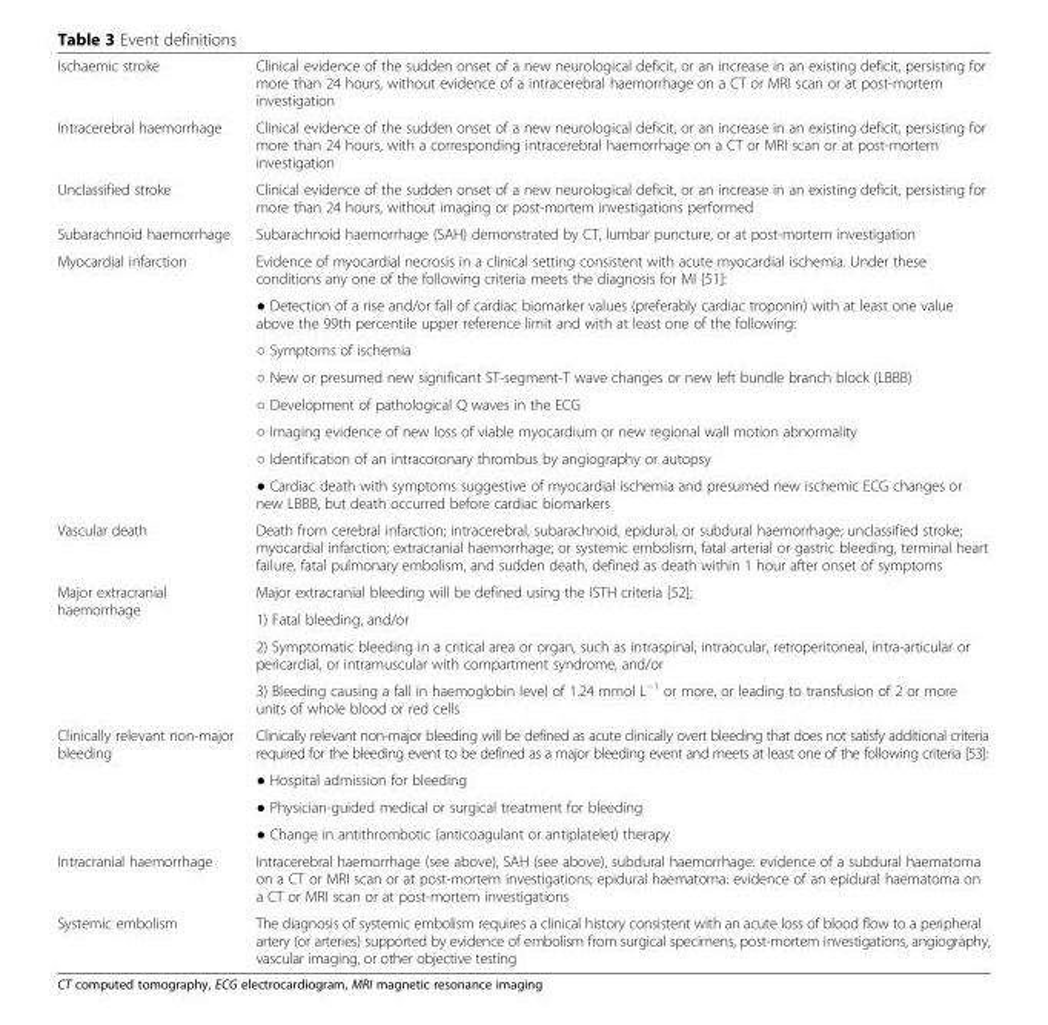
<table><tbody><tr><td>Ischaemic stroke</td><td>Clinical evidence of the sudden onset of a new neurological deficit, or an increase in an existing deficit, persisting for more than 24 hours, without evidence of a intracerebral haemorrhage on a CT or MRI scan or at post-mortem investigation</td></tr><tr><td>Intracerebral haemorrhage</td><td>Clinical evidence of the sudden onset of a new neurological deficit, or an increase in an existing deficit, persisting for more than 24 hours, with a corresponding intracerebral haemorrhage on a CT or MRI scan or at post-mortem investigation</td></tr><tr><td>Unclassified stroke</td><td>Clinical evidence of the sudden onset of a new neurological deficit, or an increase in an existing deficit, persisting for more than 24 hours, without imaging or post-mortem investigations performed</td></tr><tr><td>Subarachnoid haemorrhage</td><td>Subarachnoid haemorrhage (SAH) demonstrated by CT, lumbar puncture, or at post-mortem investigation</td></tr><tr><td rowspan="8">Myocardial infarction</td><td>Evidence of myocardial necrosis in a clinical setting consistent with acute myocardial ischemia. Under these conditions any one of the following criteria meets the diagnosis for MI [51]:</td></tr><tr><td>● Detection of a rise and/or fall of cardiac biomarker values (preferably cardiac troponin) with at least one value above the 99th percentile upper reference limit and with at least one of the following:</td></tr><tr><td>○ Symptoms of ischemia</td></tr><tr><td>○ New or presumed new significant ST-segment-T wave changes or new left bundle branch block (LBBB)</td></tr><tr><td>○ Development of pathological Q waves in the ECG</td></tr><tr><td>○ Imaging evidence of new loss of viable myocardium or new regional wall motion abnormality</td></tr><tr><td>○ Identification of an intracoronary thrombus by angiography or autopsy</td></tr><tr><td>● Cardiac death with symptoms suggestive of myocardial ischemia and presumed new ischemic ECG changes or new LBBB, but death occurred before cardiac biomarkers</td></tr><tr><td>Vascular death</td><td>Death from cerebral infarction; intracerebral, subarachnoid, epidural, or subdural haemorrhage; unclassified stroke; myocardial infarction; extracranial haemorrhage; or systemic embolism, fatal arterial or gastric bleeding, terminal heart failure, fatal pulmonary embolism, and sudden death, defined as death within 1 hour after onset of symptoms</td></tr><tr><td rowspan="4">Major extracranial haemorrhage</td><td>Major extracranial bleeding will be defined using the ISTH criteria [52];</td></tr><tr><td>1) Fatal bleeding, and/or</td></tr><tr><td>2) Symptomatic bleeding in a critical area or organ, such as intraspinal, intraocular, retroperitoneal, intra-articular or pericardial, or intramuscular with compartment syndrome, and/or</td></tr><tr><td>3) Bleeding causing a fall in haemoglobin level of 1.24 mmol L<sup>−1</sup> or more, or leading to transfusion of 2 or more units of whole blood or red cells</td></tr><tr><td rowspan="4">Clinically relevant non-major bleeding</td><td>Clinically relevant non-major bleeding will be defined as acute clinically overt bleeding that does not satisfy additional criteria required for the bleeding event to be defined as a major bleeding event and meets at least one of the following criteria [53]:</td></tr><tr><td>● Hospital admission for bleeding</td></tr><tr><td>● Physician-guided medical or surgical treatment for bleeding</td></tr><tr><td>● Change in antithrombotic (anticoagulant or antiplatelet) therapy</td></tr><tr><td>Intracranial haemorrhage</td><td>Intracerebral haemorrhage (see above), SAH (see above), subdural haemorrhage: evidence of a subdural haematoma on a CT or MRI scan or at post-mortem investigations; epidural haematoma: evidence of an epidural haematoma on a CT or MRI scan or at post-mortem investigations</td></tr><tr><td>Systemic embolism</td><td>The diagnosis of systemic embolism requires a clinical history consistent with an acute loss of blood flow to a peripheral artery (or arteries) supported by evidence of embolism from surgical specimens, post-mortem investigations, angiography, vascular imaging, or other objective testing</td></tr></tbody></table>